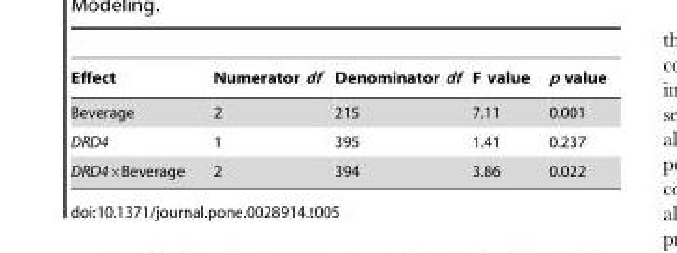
<table><thead><tr><td>Effect</td><td>Numerator df</td><td>Denominator df</td><td>F value</td><td>p value</td></tr></thead><tbody><tr><td>Beverage</td><td>2</td><td>215</td><td>7.11</td><td>0.001</td></tr><tr><td>DRD4</td><td>1</td><td>395</td><td>1.41</td><td>0.237</td></tr><tr><td>DRD4×Beverage</td><td>2</td><td>394</td><td>3.86</td><td>0.022</td></tr></tbody></table>